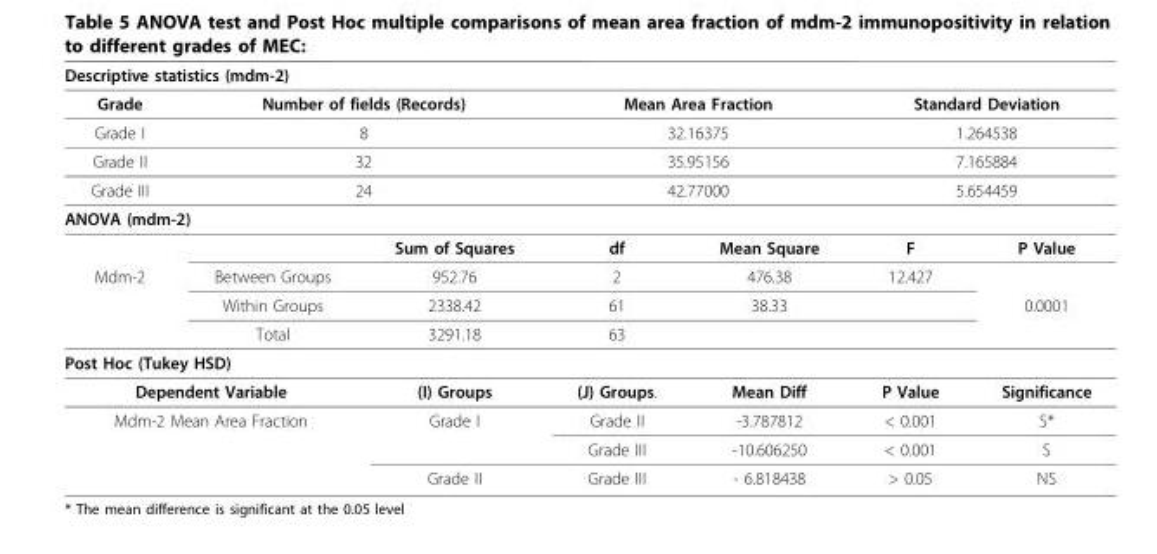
<table><thead><tr><td colspan="7">Descriptive statistics (mdm-2)</td></tr></thead><tbody><tr><td>Grade</td><td colspan="2">Number of fields (Records)</td><td colspan="2">Mean Area Fraction</td><td colspan="2">Standard Deviation</td></tr><tr><td>Grade I</td><td colspan="2">8</td><td colspan="2">32.16375</td><td colspan="2">1.264538</td></tr><tr><td>Grade II</td><td colspan="2">32</td><td colspan="2">35.95156</td><td colspan="2">7.165884</td></tr><tr><td>Grade III</td><td colspan="2">24</td><td colspan="2">42.77000</td><td colspan="2">5.654459</td></tr><tr><td colspan="7">ANOVA (mdm-2)</td></tr><tr><td></td><td></td><td>Sum of Squares</td><td>df</td><td>Mean Square</td><td>F</td><td>P Value</td></tr><tr><td rowspan="3">Mdm-2</td><td>Between Groups</td><td>952.76</td><td>2</td><td>476.38</td><td>12.427</td><td></td></tr><tr><td>Within Groups</td><td>2338.42</td><td>61</td><td>38.33</td><td></td><td>0.0001</td></tr><tr><td>Total</td><td>3291.18</td><td>63</td><td></td><td></td><td></td></tr><tr><td colspan="7">Post Hoc (Tukey HSD)</td></tr><tr><td colspan="2">Dependent Variable</td><td>(I) Groups</td><td>(J) Groups.</td><td>Mean Diff</td><td>P Value</td><td>Significance</td></tr><tr><td colspan="2">Mdm-2 Mean Area Fraction</td><td>Grade I</td><td>Grade II</td><td>-3.787812</td><td>&lt; 0.001</td><td>S*</td></tr><tr><td></td><td></td><td></td><td>Grade III</td><td>-10.606250</td><td>&lt; 0.001</td><td>S</td></tr><tr><td></td><td></td><td>Grade II</td><td>Grade III</td><td>- 6.818438</td><td>&gt; 0.05</td><td>NS</td></tr></tbody></table>